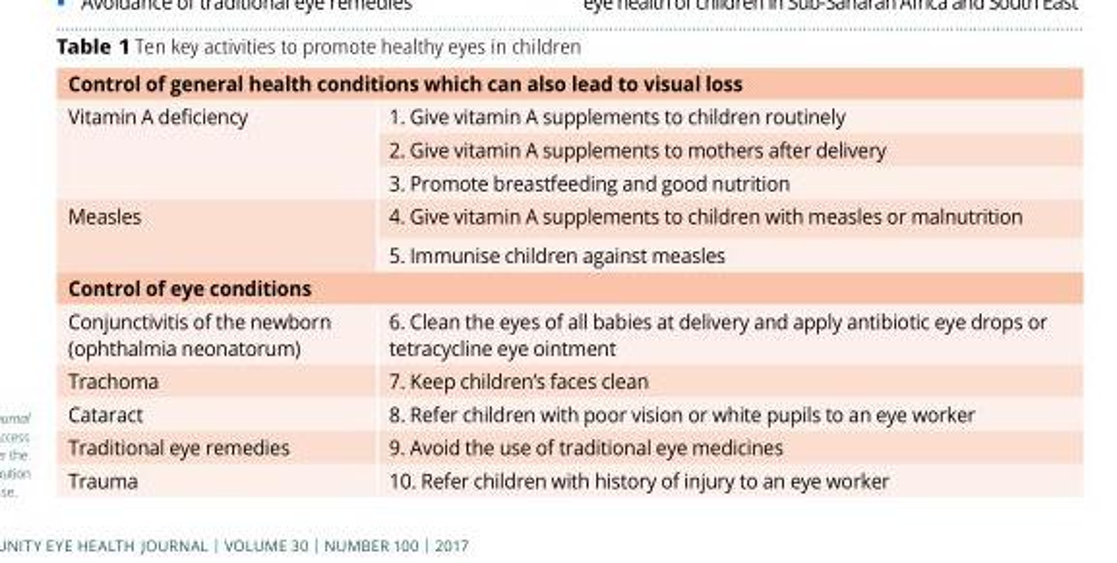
<table><tbody><tr><td colspan="2">Control of general health conditions which can also lead to visual loss</td></tr><tr><td rowspan="3">Vitamin A deficiency</td><td>1. Give vitamin A supplements to children routinely</td></tr><tr><td>2. Give vitamin A supplements to mothers after delivery</td></tr><tr><td>3. Promote breastfeeding and good nutrition</td></tr><tr><td rowspan="2">Measles</td><td>4. Give vitamin A supplements to children with measles or malnutrition</td></tr><tr><td>5. Immunise children against measles</td></tr><tr><td colspan="2">Control of eye conditions</td></tr><tr><td>Conjunctivitis of the newborn (ophthalmia neonatorum)</td><td>6. Clean the eyes of all babies at delivery and apply antibiotic eye drops or tetracycline eye ointment</td></tr><tr><td>Trachoma</td><td>7. Keep children’s faces clean</td></tr><tr><td>Cataract</td><td>8. Refer children with poor vision or white pupils to an eye worker</td></tr><tr><td>Traditional eye remedies</td><td>9. Avoid the use of traditional eye medicines</td></tr><tr><td>Trauma</td><td>10. Refer children with history of injury to an eye worker</td></tr></tbody></table>